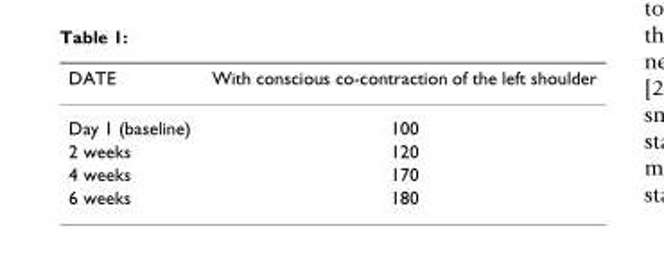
<table><thead><tr><td>DATE</td><td>With conscious co-contraction of the left shoulder</td></tr></thead><tbody><tr><td>Day 1 (baseline)</td><td>100</td></tr><tr><td>2 weeks</td><td>120</td></tr><tr><td>4 weeks</td><td>170</td></tr><tr><td>6 weeks</td><td>180</td></tr></tbody></table>